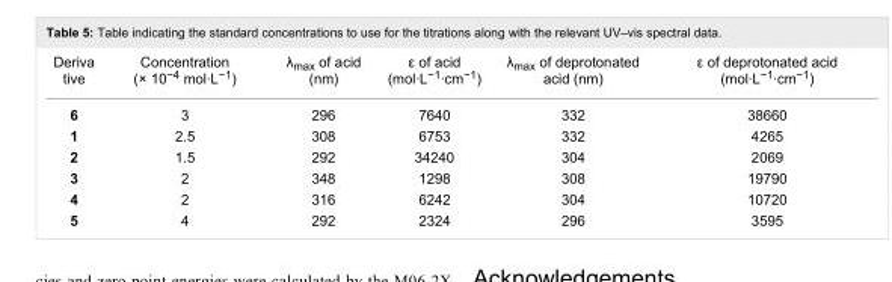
<table><tbody><tr><td>Deriva tive</td><td>Concentration (× 10<sup>−4</sup> mol·L<sup>−1</sup>)</td><td>λ<sub>max</sub> of acid (nm)</td><td>ε of acid (mol·L<sup>−1</sup>·cm<sup>−1</sup>)</td><td>λ<sub>max</sub> of deprotonated acid (nm)</td><td>ε of deprotonated acid (mol·L<sup>−1</sup>·cm<sup>−1</sup>)</td></tr><tr><td>6</td><td>3</td><td>296</td><td>7640</td><td>332</td><td>38660</td></tr><tr><td>1</td><td>2.5</td><td>308</td><td>6753</td><td>332</td><td>4265</td></tr><tr><td>2</td><td>1.5</td><td>292</td><td>34240</td><td>304</td><td>2069</td></tr><tr><td>3</td><td>2</td><td>348</td><td>1298</td><td>308</td><td>19790</td></tr><tr><td>4</td><td>2</td><td>316</td><td>6242</td><td>304</td><td>10720</td></tr><tr><td>5</td><td>4</td><td>292</td><td>2324</td><td>296</td><td>3595</td></tr></tbody></table>